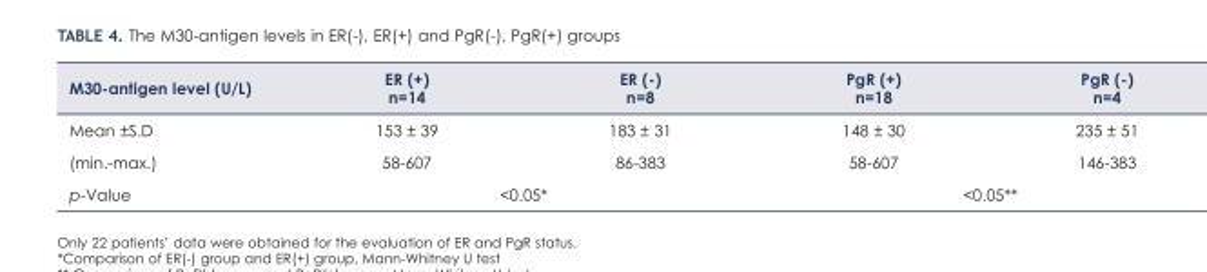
<table><thead><tr><td>M30-antigen level (U/L)</td><td>ER (+) n=14</td><td>ER (-) n=8</td><td>PgR (+) n=18</td><td>PgR (-) n=4</td></tr></thead><tbody><tr><td>Mean ±S.D</td><td>153 ± 39</td><td>183 ± 31</td><td>148 ± 30</td><td>235 ± 51</td></tr><tr><td>(min.-max.)</td><td>58-607</td><td>86-383</td><td>58-607</td><td>146-383</td></tr><tr><td>p-Value</td><td colspan="2">&lt;0.05*</td><td colspan="2">&lt;0.05**</td></tr></tbody></table>